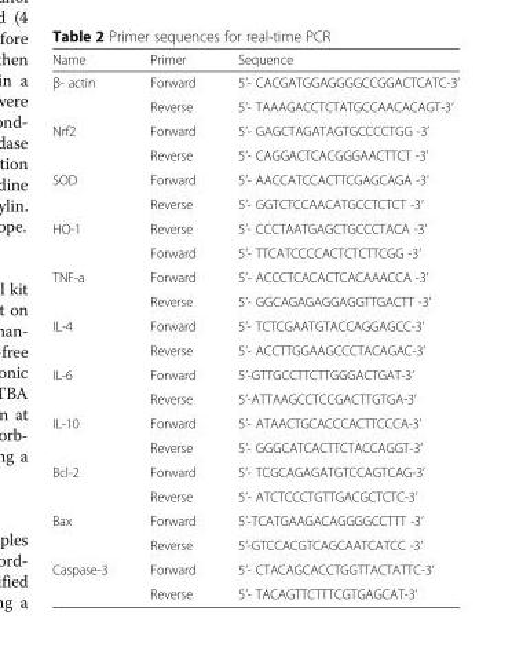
<table><thead><tr><td>Name</td><td>Primer</td><td>Sequence</td></tr></thead><tbody><tr><td rowspan="2">β- actin</td><td>Forward</td><td>5’- CACGATGGAGGGGCCGGACTCATC-3’</td></tr><tr><td>Reverse</td><td>5’- TAAAGACCTCTATGCCAACACAGT-3’</td></tr><tr><td rowspan="2">Nrf2</td><td>Forward</td><td>5’- GAGCTAGATAGTGCCCCTGG -3’</td></tr><tr><td>Reverse</td><td>5’- CAGGACTCACGGGAACTTCT -3’</td></tr><tr><td rowspan="2">SOD</td><td>Forward</td><td>5’- AACCATCCACTTCGAGCAGA -3’</td></tr><tr><td>Reverse</td><td>5’- GGTCTCCAACATGCCTCTCT -3’</td></tr><tr><td rowspan="2">HO-1</td><td>Reverse</td><td>5’- CCCTAATGAGCTGCCCTACA -3’</td></tr><tr><td>Forward</td><td>5’- TTCATCCCCACTCTCTTCGG -3’</td></tr><tr><td rowspan="2">TNF-a</td><td>Forward</td><td>5’- ACCCTCACACTCACAAACCA -3’</td></tr><tr><td>Reverse</td><td>5’- GGCAGAGAGGAGGTTGACTT -3’</td></tr><tr><td rowspan="2">IL-4</td><td>Forward</td><td>5’- TCTCGAATGTACCAGGAGCC-3’</td></tr><tr><td>Reverse</td><td>5’- ACCTTGGAAGCCCTACAGAC-3’</td></tr><tr><td rowspan="2">IL-6</td><td>Forward</td><td>5’-GTTGCCTTCTTGGGACTGAT-3’</td></tr><tr><td>Reverse</td><td>5’-ATTAAGCCTCCGACTTGTGA-3’</td></tr><tr><td rowspan="2">IL-10</td><td>Forward</td><td>5’- ATAACTGCACCCACTTCCCA-3’</td></tr><tr><td>Reverse</td><td>5’- GGGCATCACTTCTACCAGGT-3’</td></tr><tr><td rowspan="2">Bcl-2</td><td>Forward</td><td>5’- TCGCAGAGATGTCCAGTCAG-3’</td></tr><tr><td>Reverse</td><td>5’- ATCTCCCTGTTGACGCTCTC-3’</td></tr><tr><td rowspan="2">Bax</td><td>Forward</td><td>5’-TCATGAAGACAGGGGCCTTT -3’</td></tr><tr><td>Reverse</td><td>5’-GTCCACGTCAGCAATCATCC -3’</td></tr><tr><td rowspan="2">Caspase-3</td><td>Forward</td><td>5’- CTACAGCACCTGGTTACTATTC-3’</td></tr><tr><td>Reverse</td><td>5’- TACAGTTCTTTCGTGAGCAT-3’</td></tr></tbody></table>